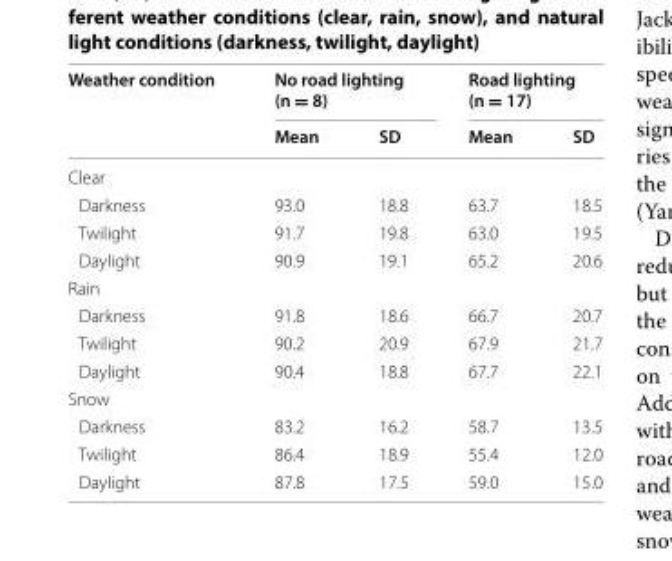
<table><thead><tr><td rowspan="2">Weather condition</td><td colspan="2">No road lighting (n = 8)</td><td colspan="2">Road lighting (n = 17)</td></tr><tr><td>Mean</td><td>SD</td><td>Mean</td><td>SD</td></tr></thead><tbody><tr><td colspan="5">Clear</td></tr><tr><td>Darkness</td><td>93.0</td><td>18.8</td><td>63.7</td><td>18.5</td></tr><tr><td>Twilight</td><td>91.7</td><td>19.8</td><td>63.0</td><td>19.5</td></tr><tr><td>Daylight</td><td>90.9</td><td>19.1</td><td>65.2</td><td>20.6</td></tr><tr><td colspan="5">Rain</td></tr><tr><td>Darkness</td><td>91.8</td><td>18.6</td><td>66.7</td><td>20.7</td></tr><tr><td>Twilight</td><td>90.2</td><td>20.9</td><td>67.9</td><td>21.7</td></tr><tr><td>Daylight</td><td>90.4</td><td>18.8</td><td>67.7</td><td>22.1</td></tr><tr><td colspan="5">Snow</td></tr><tr><td>Darkness</td><td>83.2</td><td>16.2</td><td>58.7</td><td>13.5</td></tr><tr><td>Twilight</td><td>86.4</td><td>18.9</td><td>55.4</td><td>12.0</td></tr><tr><td>Daylight</td><td>87.8</td><td>17.5</td><td>59.0</td><td>15.0</td></tr></tbody></table>